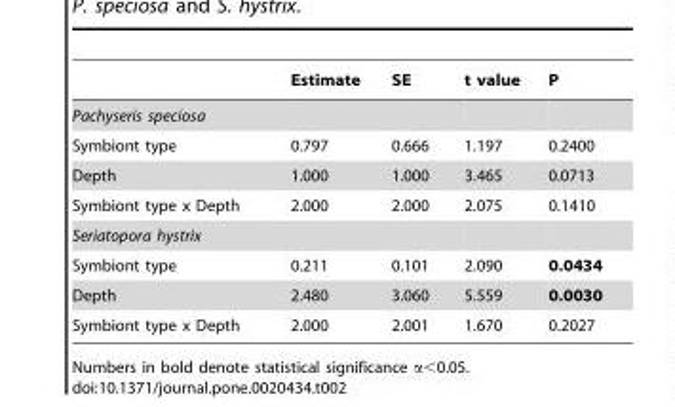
<table><thead><tr><td></td><td>Estimate</td><td>SE</td><td>t value</td><td>P</td></tr></thead><tbody><tr><td colspan="5">Pachyseris speciosa</td></tr><tr><td>Symbiont type</td><td>0.797</td><td>0.666</td><td>1.197</td><td>0.2400</td></tr><tr><td>Depth</td><td>1.000</td><td>1.000</td><td>3.465</td><td>0.0713</td></tr><tr><td>Symbiont type x Depth</td><td>2.000</td><td>2.000</td><td>2.075</td><td>0.1410</td></tr><tr><td colspan="5">Seriatopora hystrix</td></tr><tr><td>Symbiont type</td><td>0.211</td><td>0.101</td><td>2.090</td><td>0.0434</td></tr><tr><td>Depth</td><td>2.480</td><td>3.060</td><td>5.559</td><td>0.0030</td></tr><tr><td>Symbiont type x Depth</td><td>2.000</td><td>2.001</td><td>1.670</td><td>0.2027</td></tr></tbody></table>